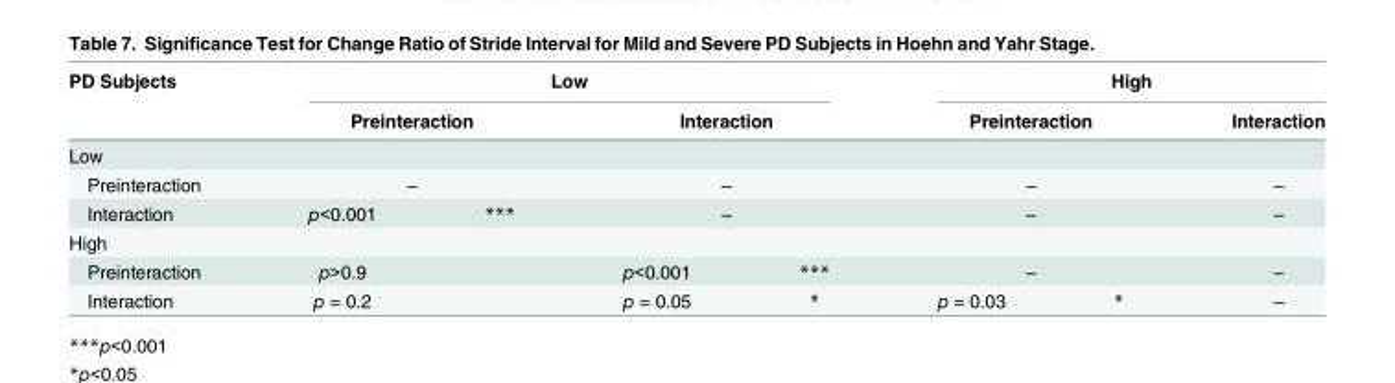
<table><thead><tr><td rowspan="2">PD Subjects</td><td colspan="4">Low</td><td colspan="3">High</td></tr><tr><td colspan="2">Preinteraction</td><td colspan="2">Interaction</td><td colspan="2">Preinteraction</td><td>Interaction</td></tr></thead><tbody><tr><td colspan="8">Low</td></tr><tr><td>Preinteraction</td><td colspan="2">–</td><td colspan="2">–</td><td colspan="2">–</td><td>–</td></tr><tr><td>Interaction</td><td>p&lt;0.001</td><td>***</td><td colspan="2">–</td><td colspan="2">–</td><td>–</td></tr><tr><td colspan="8">High</td></tr><tr><td>Preinteraction</td><td>p&gt;0.9</td><td></td><td>p&lt;0.001</td><td>***</td><td colspan="2">–</td><td>–</td></tr><tr><td>Interaction</td><td>p = 0.2</td><td></td><td>p = 0.05</td><td>*</td><td>p = 0.03</td><td>*</td><td>–</td></tr></tbody></table>